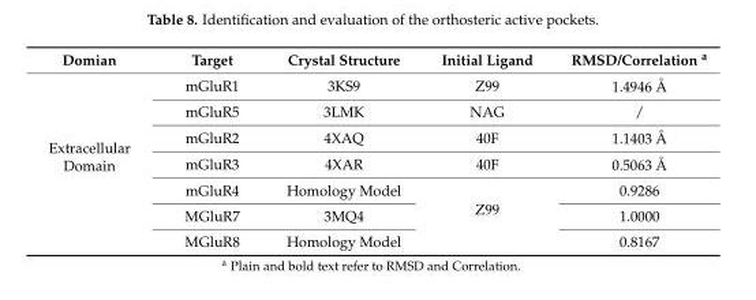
<table><thead><tr><td>Domian</td><td>Target</td><td>Crystal Structure</td><td>Initial Ligand</td><td>RMSD/Correlation <sup>a</sup></td></tr></thead><tbody><tr><td rowspan="7">Extracellular Domain</td><td>mGluR1</td><td>3KS9</td><td>Z99</td><td>1.4946 Å</td></tr><tr><td>mGluR5</td><td>3LMK</td><td>NAG</td><td>/</td></tr><tr><td>mGluR2</td><td>4XAQ</td><td>40F</td><td>1.1403 Å</td></tr><tr><td>mGluR3</td><td>4XAR</td><td>40F</td><td>0.5063 Å</td></tr><tr><td>mGluR4</td><td>Homology Model</td><td rowspan="3">Z99</td><td>0.9286</td></tr><tr><td>MGluR7</td><td>3MQ4</td><td>1.0000</td></tr><tr><td>MGluR8</td><td>Homology Model</td><td>0.8167</td></tr></tbody></table>